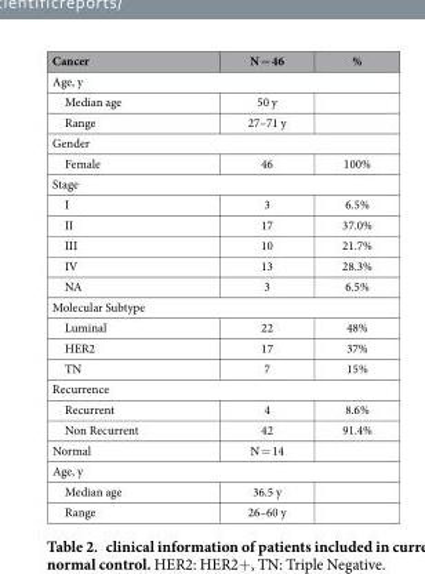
<table><thead><tr><td>Cancer</td><td>N = 46</td><td>%</td></tr></thead><tbody><tr><td colspan="3">Age, y</td></tr><tr><td>Median age</td><td>50 y</td><td></td></tr><tr><td>Range</td><td>27–71 y</td><td></td></tr><tr><td colspan="3">Gender</td></tr><tr><td>Female</td><td>46</td><td>100%</td></tr><tr><td colspan="3">Stage</td></tr><tr><td>I</td><td>3</td><td>6.5%</td></tr><tr><td>II</td><td>17</td><td>37.0%</td></tr><tr><td>III</td><td>10</td><td>21.7%</td></tr><tr><td>IV</td><td>13</td><td>28.3%</td></tr><tr><td>NA</td><td>3</td><td>6.5%</td></tr><tr><td colspan="3">Molecular Subtype</td></tr><tr><td>Luminal</td><td>22</td><td>48%</td></tr><tr><td>HER2</td><td>17</td><td>37%</td></tr><tr><td>TN</td><td>7</td><td>15%</td></tr><tr><td colspan="3">Recurrence</td></tr><tr><td>Recurrent</td><td>4</td><td>8.6%</td></tr><tr><td>Non Recurrent</td><td>42</td><td>91.4%</td></tr><tr><td>Normal</td><td>N = 14</td><td></td></tr><tr><td colspan="3">Age, y</td></tr><tr><td>Median age</td><td>36.5 y</td><td></td></tr><tr><td>Range</td><td>26–60 y</td><td></td></tr></tbody></table>